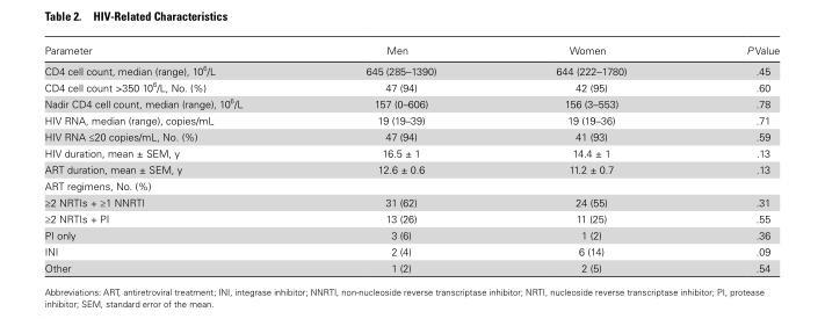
<table><thead><tr><td>Parameter</td><td>Men</td><td>Women</td><td>P Value</td></tr></thead><tbody><tr><td>CD4 cell count, median (range), 10<sup>6</sup>/L</td><td>645 (285–1390)</td><td>644 (222–1780)</td><td>.45</td></tr><tr><td>CD4 cell count &gt;350 10<sup>6</sup>/L, No. (%)</td><td>47 (94)</td><td>42 (95)</td><td>.60</td></tr><tr><td>Nadir CD4 cell count, median (range), 10<sup>6</sup>/L</td><td>157 (0–606)</td><td>156 (3–553)</td><td>.78</td></tr><tr><td>HIV RNA, median (range), copies/mL</td><td>19 (19–39)</td><td>19 (19–36)</td><td>.71</td></tr><tr><td>HIV RNA ≤20 copies/mL, No. (%)</td><td>47 (94)</td><td>41 (93)</td><td>.59</td></tr><tr><td>HIV duration, mean ± SEM, y</td><td>16.5 ± 1</td><td>14.4 ± 1</td><td>.13</td></tr><tr><td>ART duration, mean ± SEM, y</td><td>12.6 ± 0.6</td><td>11.2 ± 0.7</td><td>.13</td></tr><tr><td colspan="4">ART regimens, No. (%)</td></tr><tr><td>≥2 NRTIs + ≥1 NNRTI</td><td>31 (62)</td><td>24 (55)</td><td>.31</td></tr><tr><td>≥2 NRTIs + PI</td><td>13 (26)</td><td>11 (25)</td><td>.55</td></tr><tr><td>PI only</td><td>3 (6)</td><td>1 (2)</td><td>.36</td></tr><tr><td>INI</td><td>2 (4)</td><td>6 (14)</td><td>.09</td></tr><tr><td>Other</td><td>1 (2)</td><td>2 (5)</td><td>.54</td></tr></tbody></table>